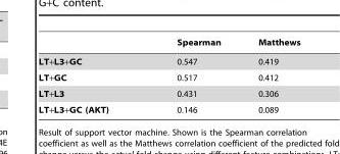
<table><thead><tr><td></td><td>Spearman</td><td>Matthews</td></tr></thead><tbody><tr><td>LT+L3+GC</td><td>0.547</td><td>0.419</td></tr><tr><td>LT+GC</td><td>0.517</td><td>0.412</td></tr><tr><td>LT+L3</td><td>0.431</td><td>0.306</td></tr><tr><td>LT+L3+GC (AKT)</td><td>0.146</td><td>0.089</td></tr></tbody></table>